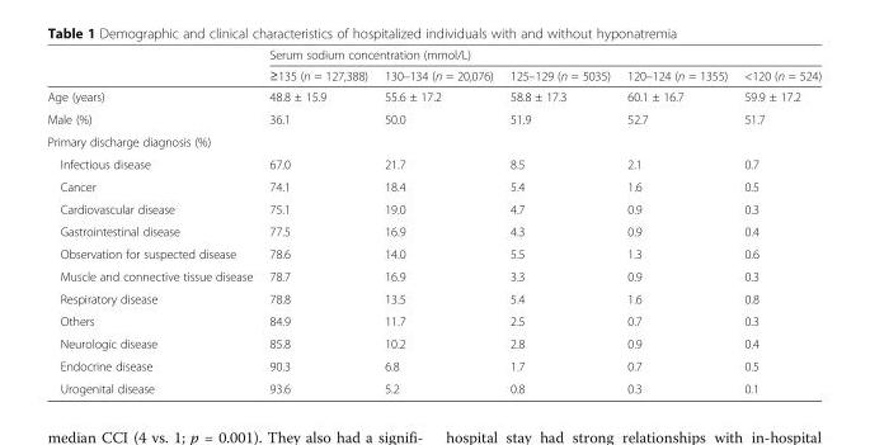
<table><thead><tr><td rowspan="2"></td><td colspan="5">Serum sodium concentration (mmol/L)</td></tr><tr><td>≥135 (n = 127,388)</td><td>130–134 (n = 20,076)</td><td>125–129 (n = 5035)</td><td>120–124 (n = 1355)</td><td>&lt;120 (n = 524)</td></tr></thead><tbody><tr><td>Age (years)</td><td>48.8 ± 15.9</td><td>55.6 ± 17.2</td><td>58.8 ± 17.3</td><td>60.1 ± 16.7</td><td>59.9 ± 17.2</td></tr><tr><td>Male (%)</td><td>36.1</td><td>50.0</td><td>51.9</td><td>52.7</td><td>51.7</td></tr><tr><td colspan="6">Primary discharge diagnosis (%)</td></tr><tr><td>Infectious disease</td><td>67.0</td><td>21.7</td><td>8.5</td><td>2.1</td><td>0.7</td></tr><tr><td>Cancer</td><td>74.1</td><td>18.4</td><td>5.4</td><td>1.6</td><td>0.5</td></tr><tr><td>Cardiovascular disease</td><td>75.1</td><td>19.0</td><td>4.7</td><td>0.9</td><td>0.3</td></tr><tr><td>Gastrointestinal disease</td><td>77.5</td><td>16.9</td><td>4.3</td><td>0.9</td><td>0.4</td></tr><tr><td>Observation for suspected disease</td><td>78.6</td><td>14.0</td><td>5.5</td><td>1.3</td><td>0.6</td></tr><tr><td>Muscle and connective tissue disease</td><td>78.7</td><td>16.9</td><td>3.3</td><td>0.9</td><td>0.3</td></tr><tr><td>Respiratory disease</td><td>78.8</td><td>13.5</td><td>5.4</td><td>1.6</td><td>0.8</td></tr><tr><td>Others</td><td>84.9</td><td>11.7</td><td>2.5</td><td>0.7</td><td>0.3</td></tr><tr><td>Neurologic disease</td><td>85.8</td><td>10.2</td><td>2.8</td><td>0.9</td><td>0.4</td></tr><tr><td>Endocrine disease</td><td>90.3</td><td>6.8</td><td>1.7</td><td>0.7</td><td>0.5</td></tr><tr><td>Urogenital disease</td><td>93.6</td><td>5.2</td><td>0.8</td><td>0.3</td><td>0.1</td></tr></tbody></table>